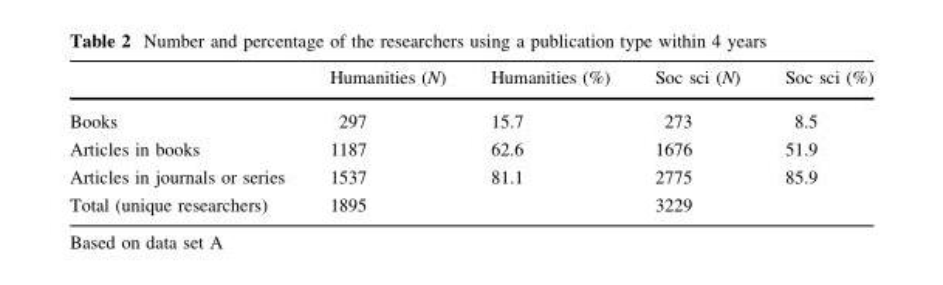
<table><thead><tr><td></td><td>Humanities (N)</td><td>Humanities (%)</td><td>Soc sci (N)</td><td>Soc sci (%)</td></tr></thead><tbody><tr><td>Books</td><td>297</td><td>15.7</td><td>273</td><td>8.5</td></tr><tr><td>Articles in books</td><td>1187</td><td>62.6</td><td>1676</td><td>51.9</td></tr><tr><td>Articles in journals or series</td><td>1537</td><td>81.1</td><td>2775</td><td>85.9</td></tr><tr><td>Total (unique researchers)</td><td>1895</td><td></td><td>3229</td><td></td></tr></tbody></table>